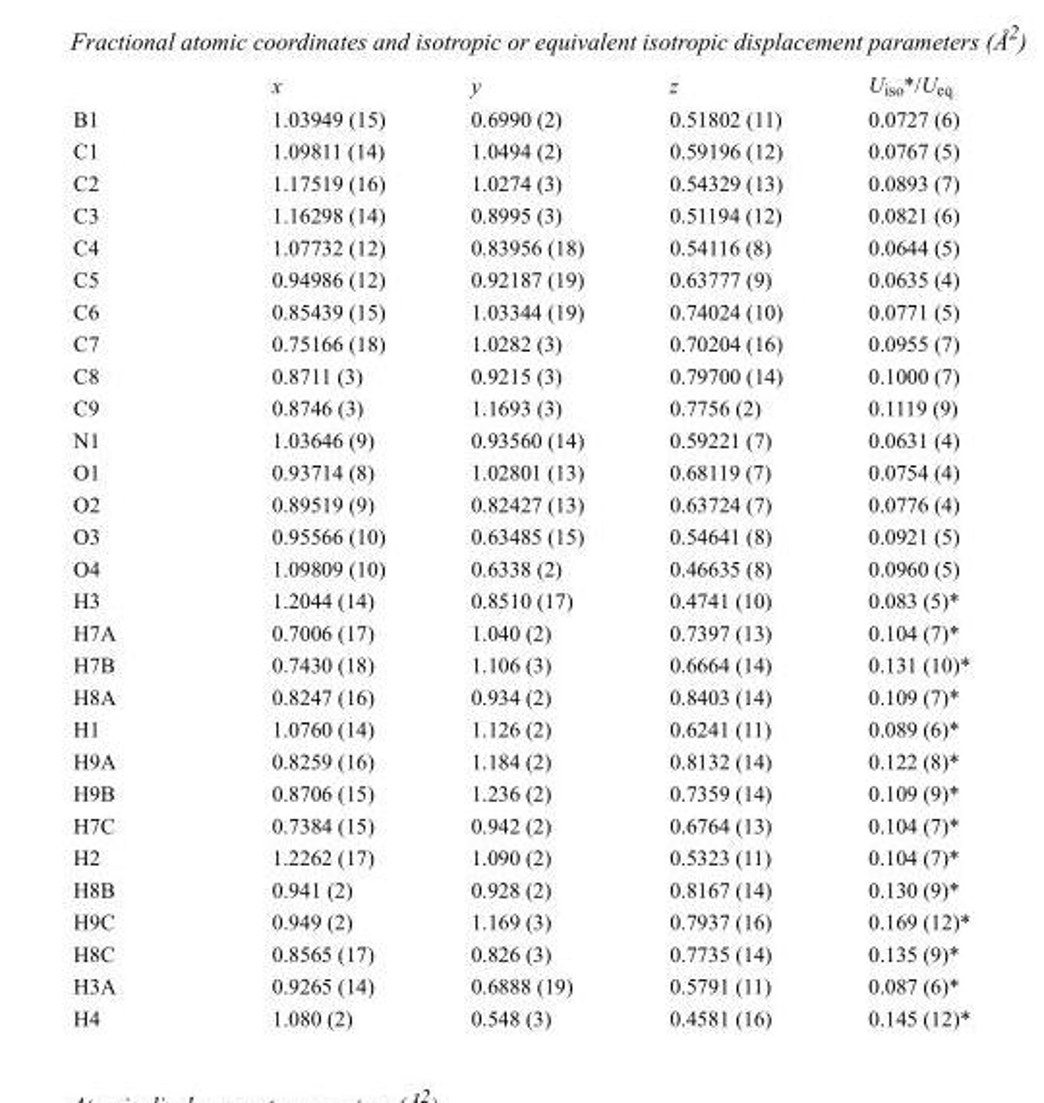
<table><thead><tr><td></td><td>x</td><td>y</td><td>z</td><td>U<sub>iso</sub>*/U<sub>eq</sub></td></tr></thead><tbody><tr><td>B1</td><td>1.03949 (15)</td><td>0.6990 (2)</td><td>0.51802 (11)</td><td>0.0727 (6)</td></tr><tr><td>C1</td><td>1.09811 (14)</td><td>1.0494 (2)</td><td>0.59196 (12)</td><td>0.0767 (5)</td></tr><tr><td>C2</td><td>1.17519 (16)</td><td>1.0274 (3)</td><td>0.54329 (13)</td><td>0.0893 (7)</td></tr><tr><td>C3</td><td>1.16298 (14)</td><td>0.8995 (3)</td><td>0.51194 (12)</td><td>0.0821 (6)</td></tr><tr><td>C4</td><td>1.07732 (12)</td><td>0.83956 (18)</td><td>0.54116 (8)</td><td>0.0644 (5)</td></tr><tr><td>C5</td><td>0.94986 (12)</td><td>0.92187 (19)</td><td>0.63777 (9)</td><td>0.0635 (4)</td></tr><tr><td>C6</td><td>0.85439 (15)</td><td>1.03344 (19)</td><td>0.74024 (10)</td><td>0.0771 (5)</td></tr><tr><td>C7</td><td>0.75166 (18)</td><td>1.0282 (3)</td><td>0.70204 (16)</td><td>0.0955 (7)</td></tr><tr><td>C8</td><td>0.8711 (3)</td><td>0.9215 (3)</td><td>0.79700 (14)</td><td>0.1000 (7)</td></tr><tr><td>C9</td><td>0.8746 (3)</td><td>1.1693 (3)</td><td>0.7756 (2)</td><td>0.1119 (9)</td></tr><tr><td>N1</td><td>1.03646 (9)</td><td>0.93560 (14)</td><td>0.59221 (7)</td><td>0.0631 (4)</td></tr><tr><td>O1</td><td>0.93714 (8)</td><td>1.02801 (13)</td><td>0.68119 (7)</td><td>0.0754 (4)</td></tr><tr><td>O2</td><td>0.89519 (9)</td><td>0.82427 (13)</td><td>0.63724 (7)</td><td>0.0776 (4)</td></tr><tr><td>O3</td><td>0.95566 (10)</td><td>0.63485 (15)</td><td>0.54641 (8)</td><td>0.0921 (5)</td></tr><tr><td>O4</td><td>1.09809 (10)</td><td>0.6338 (2)</td><td>0.46635 (8)</td><td>0.0960 (5)</td></tr><tr><td>H3</td><td>1.2044 (14)</td><td>0.8510 (17)</td><td>0.4741 (10)</td><td>0.083 (5)*</td></tr><tr><td>H7A</td><td>0.7006 (17)</td><td>1.040 (2)</td><td>0.7397 (13)</td><td>0.104 (7)*</td></tr><tr><td>H7B</td><td>0.7430 (18)</td><td>1.106 (3)</td><td>0.6664 (14)</td><td>0.131 (10)*</td></tr><tr><td>H8A</td><td>0.8247 (16)</td><td>0.934 (2)</td><td>0.8403 (14)</td><td>0.109 (7)*</td></tr><tr><td>H1</td><td>1.0760 (14)</td><td>1.126 (2)</td><td>0.6241 (11)</td><td>0.089 (6)*</td></tr><tr><td>H9A</td><td>0.8259 (16)</td><td>1.184 (2)</td><td>0.8132 (14)</td><td>0.122 (8)*</td></tr><tr><td>H9B</td><td>0.8706 (15)</td><td>1.236 (2)</td><td>0.7359 (14)</td><td>0.109 (9)*</td></tr><tr><td>H7C</td><td>0.7384 (15)</td><td>0.942 (2)</td><td>0.6764 (13)</td><td>0.104 (7)*</td></tr><tr><td>H2</td><td>1.2262 (17)</td><td>1.090 (2)</td><td>0.5323 (11)</td><td>0.104 (7)*</td></tr><tr><td>H8B</td><td>0.941 (2)</td><td>0.928 (2)</td><td>0.8167 (14)</td><td>0.130 (9)*</td></tr><tr><td>H9C</td><td>0.949 (2)</td><td>1.169 (3)</td><td>0.7937 (16)</td><td>0.169 (12)*</td></tr><tr><td>H8C</td><td>0.8565 (17)</td><td>0.826 (3)</td><td>0.7735 (14)</td><td>0.135 (9)*</td></tr><tr><td>H3A</td><td>0.9265 (14)</td><td>0.6888 (19)</td><td>0.5791 (11)</td><td>0.087 (6)*</td></tr><tr><td>H4</td><td>1.080 (2)</td><td>0.548 (3)</td><td>0.4581 (16)</td><td>0.145 (12)*</td></tr></tbody></table>